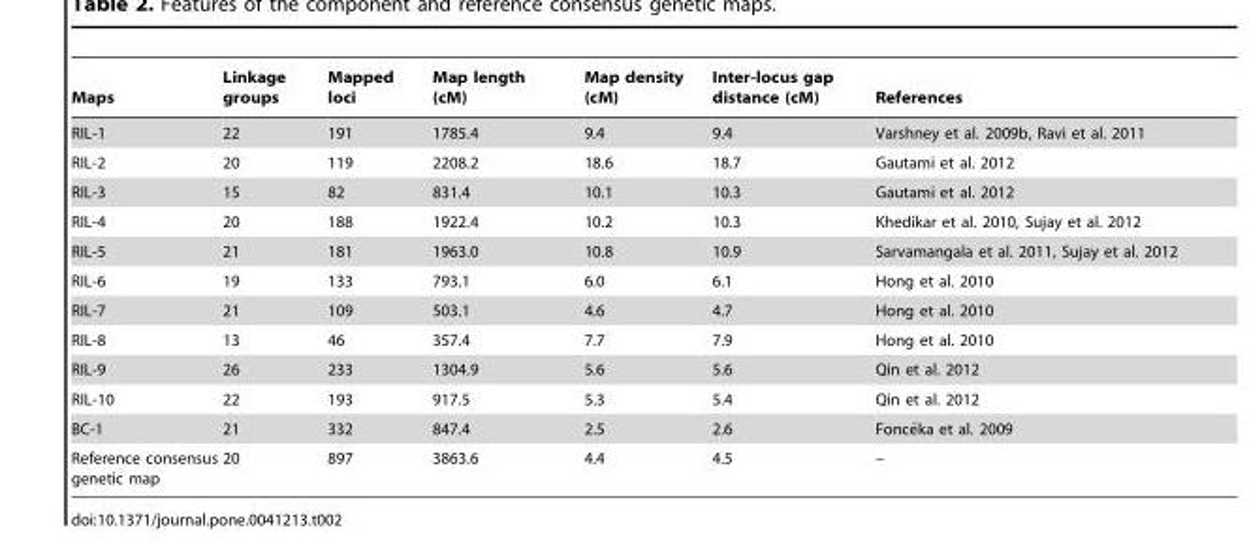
<table><thead><tr><td>Maps</td><td>Linkage groups</td><td>Mapped loci</td><td>Map length (cM)</td><td>Map density (cM)</td><td>Inter-locus gap distance (cM)</td><td>References</td></tr></thead><tbody><tr><td>RIL-1</td><td>22</td><td>191</td><td>1785.4</td><td>9.4</td><td>9.4</td><td>Varshney et al. 2009b, Ravi et al. 2011</td></tr><tr><td>RIL-2</td><td>20</td><td>119</td><td>2208.2</td><td>18.6</td><td>18.7</td><td>Gautami et al. 2012</td></tr><tr><td>RIL-3</td><td>15</td><td>82</td><td>831.4</td><td>10.1</td><td>10.3</td><td>Gautami et al. 2012</td></tr><tr><td>RIL-4</td><td>20</td><td>188</td><td>1922.4</td><td>10.2</td><td>10.3</td><td>Khedikar et al. 2010, Sujay et al. 2012</td></tr><tr><td>RIL-5</td><td>21</td><td>181</td><td>1963.0</td><td>10.8</td><td>10.9</td><td>Sarvamangala et al. 2011, Sujay et al. 2012</td></tr><tr><td>RIL-6</td><td>19</td><td>133</td><td>793.1</td><td>6.0</td><td>6.1</td><td>Hong et al. 2010</td></tr><tr><td>RIL-7</td><td>21</td><td>109</td><td>503.1</td><td>4.6</td><td>4.7</td><td>Hong et al. 2010</td></tr><tr><td>RIL-8</td><td>13</td><td>46</td><td>357.4</td><td>7.7</td><td>7.9</td><td>Hong et al. 2010</td></tr><tr><td>RIL-9</td><td>26</td><td>233</td><td>1304.9</td><td>5.6</td><td>5.6</td><td>Qin et al. 2012</td></tr><tr><td>RIL-10</td><td>22</td><td>193</td><td>917.5</td><td>5.3</td><td>5.4</td><td>Qin et al. 2012</td></tr><tr><td>BC-1</td><td>21</td><td>332</td><td>847.4</td><td>2.5</td><td>2.6</td><td>Fonce´ka et al. 2009</td></tr><tr><td>Reference consensus genetic map</td><td>20</td><td>897</td><td>3863.6</td><td>4.4</td><td>4.5</td><td>–</td></tr></tbody></table>